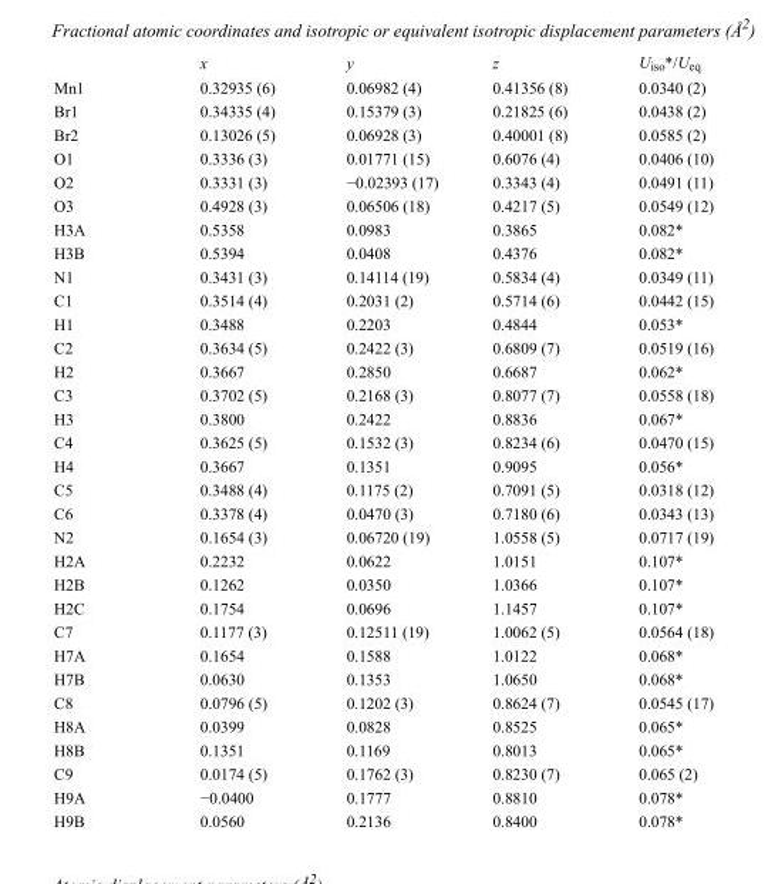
<table><thead><tr><td></td><td>x</td><td>y</td><td>z</td><td>U<sub>iso</sub>*/U<sub>eq</sub></td></tr></thead><tbody><tr><td>Mn1</td><td>0.32935 (6)</td><td>0.06982 (4)</td><td>0.41356 (8)</td><td>0.0340 (2)</td></tr><tr><td>Br1</td><td>0.34335 (4)</td><td>0.15379 (3)</td><td>0.21825 (6)</td><td>0.0438 (2)</td></tr><tr><td>Br2</td><td>0.13026 (5)</td><td>0.06928 (3)</td><td>0.40001 (8)</td><td>0.0585 (2)</td></tr><tr><td>O1</td><td>0.3336 (3)</td><td>0.01771 (15)</td><td>0.6076 (4)</td><td>0.0406 (10)</td></tr><tr><td>O2</td><td>0.3331 (3)</td><td>−0.02393 (17)</td><td>0.3343 (4)</td><td>0.0491 (11)</td></tr><tr><td>O3</td><td>0.4928 (3)</td><td>0.06506 (18)</td><td>0.4217 (5)</td><td>0.0549 (12)</td></tr><tr><td>H3A</td><td>0.5358</td><td>0.0983</td><td>0.3865</td><td>0.082*</td></tr><tr><td>H3B</td><td>0.5394</td><td>0.0408</td><td>0.4376</td><td>0.082*</td></tr><tr><td>N1</td><td>0.3431 (3)</td><td>0.14114 (19)</td><td>0.5834 (4)</td><td>0.0349 (11)</td></tr><tr><td>C1</td><td>0.3514 (4)</td><td>0.2031 (2)</td><td>0.5714 (6)</td><td>0.0442 (15)</td></tr><tr><td>H1</td><td>0.3488</td><td>0.2203</td><td>0.4844</td><td>0.053*</td></tr><tr><td>C2</td><td>0.3634 (5)</td><td>0.2422 (3)</td><td>0.6809 (7)</td><td>0.0519 (16)</td></tr><tr><td>H2</td><td>0.3667</td><td>0.2850</td><td>0.6687</td><td>0.062*</td></tr><tr><td>C3</td><td>0.3702 (5)</td><td>0.2168 (3)</td><td>0.8077 (7)</td><td>0.0558 (18)</td></tr><tr><td>H3</td><td>0.3800</td><td>0.2422</td><td>0.8836</td><td>0.067*</td></tr><tr><td>C4</td><td>0.3625 (5)</td><td>0.1532 (3)</td><td>0.8234 (6)</td><td>0.0470 (15)</td></tr><tr><td>H4</td><td>0.3667</td><td>0.1351</td><td>0.9095</td><td>0.056*</td></tr><tr><td>C5</td><td>0.3488 (4)</td><td>0.1175 (2)</td><td>0.7091 (5)</td><td>0.0318 (12)</td></tr><tr><td>C6</td><td>0.3378 (4)</td><td>0.0470 (3)</td><td>0.7180 (6)</td><td>0.0343 (13)</td></tr><tr><td>N2</td><td>0.1654 (3)</td><td>0.06720 (19)</td><td>1.0558 (5)</td><td>0.0717 (19)</td></tr><tr><td>H2A</td><td>0.2232</td><td>0.0622</td><td>1.0151</td><td>0.107*</td></tr><tr><td>H2B</td><td>0.1262</td><td>0.0350</td><td>1.0366</td><td>0.107*</td></tr><tr><td>H2C</td><td>0.1754</td><td>0.0696</td><td>1.1457</td><td>0.107*</td></tr><tr><td>C7</td><td>0.1177 (3)</td><td>0.12511 (19)</td><td>1.0062 (5)</td><td>0.0564 (18)</td></tr><tr><td>H7A</td><td>0.1654</td><td>0.1588</td><td>1.0122</td><td>0.068*</td></tr><tr><td>H7B</td><td>0.0630</td><td>0.1353</td><td>1.0650</td><td>0.068*</td></tr><tr><td>C8</td><td>0.0796 (5)</td><td>0.1202 (3)</td><td>0.8624 (7)</td><td>0.0545 (17)</td></tr><tr><td>H8A</td><td>0.0399</td><td>0.0828</td><td>0.8525</td><td>0.065*</td></tr><tr><td>H8B</td><td>0.1351</td><td>0.1169</td><td>0.8013</td><td>0.065*</td></tr><tr><td>C9</td><td>0.0174 (5)</td><td>0.1762 (3)</td><td>0.8230 (7)</td><td>0.065 (2)</td></tr><tr><td>H9A</td><td>−0.0400</td><td>0.1777</td><td>0.8810</td><td>0.078*</td></tr><tr><td>H9B</td><td>0.0560</td><td>0.2136</td><td>0.8400</td><td>0.078*</td></tr></tbody></table>